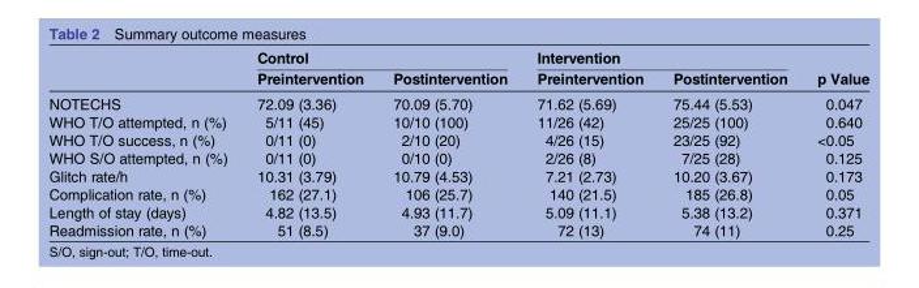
<table><thead><tr><td rowspan="2"></td><td colspan="2">Control</td><td colspan="2">Intervention</td><td rowspan="2">p Value</td></tr><tr><td>Preintervention</td><td>Postintervention</td><td>Preintervention</td><td>Postintervention</td></tr></thead><tbody><tr><td>NOTECHS</td><td>72.09 (3.36)</td><td>70.09 (5.70)</td><td>71.62 (5.69)</td><td>75.44 (5.53)</td><td>0.047</td></tr><tr><td>WHO T/O attempted, n (%)</td><td>5/11 (45)</td><td>10/10 (100)</td><td>11/26 (42)</td><td>25/25 (100)</td><td>0.640</td></tr><tr><td>WHO T/O success, n (%)</td><td>0/11 (0)</td><td>2/10 (20)</td><td>4/26 (15)</td><td>23/25 (92)</td><td>&lt;0.05</td></tr><tr><td>WHO S/O attempted, n (%)</td><td>0/11 (0)</td><td>0/10 (0)</td><td>2/26 (8)</td><td>7/25 (28)</td><td>0.125</td></tr><tr><td>Glitch rate/h</td><td>10.31 (3.79)</td><td>10.79 (4.53)</td><td>7.21 (2.73)</td><td>10.20 (3.67)</td><td>0.173</td></tr><tr><td>Complication rate, n (%)</td><td>162 (27.1)</td><td>106 (25.7)</td><td>140 (21.5)</td><td>185 (26.8)</td><td>0.05</td></tr><tr><td>Length of stay (days)</td><td>4.82 (13.5)</td><td>4.93 (11.7)</td><td>5.09 (11.1)</td><td>5.38 (13.2)</td><td>0.371</td></tr><tr><td>Readmission rate, n (%)</td><td>51 (8.5)</td><td>37 (9.0)</td><td>72 (13)</td><td>74 (11)</td><td>0.25</td></tr></tbody></table>